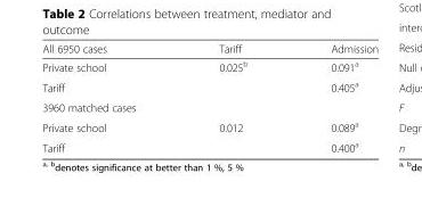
<table><thead><tr><td>All 6950 cases</td><td>Tariff</td><td>Admission</td></tr></thead><tbody><tr><td>Private school</td><td>0.025<sup>b</sup></td><td>0.091<sup>a</sup></td></tr><tr><td>Tariff</td><td></td><td>0.405<sup>a</sup></td></tr><tr><td colspan="3">3960 matched cases</td></tr><tr><td>Private school</td><td>0.012</td><td>0.089<sup>a</sup></td></tr><tr><td>Tariff</td><td></td><td>0.400<sup>a</sup></td></tr></tbody></table>